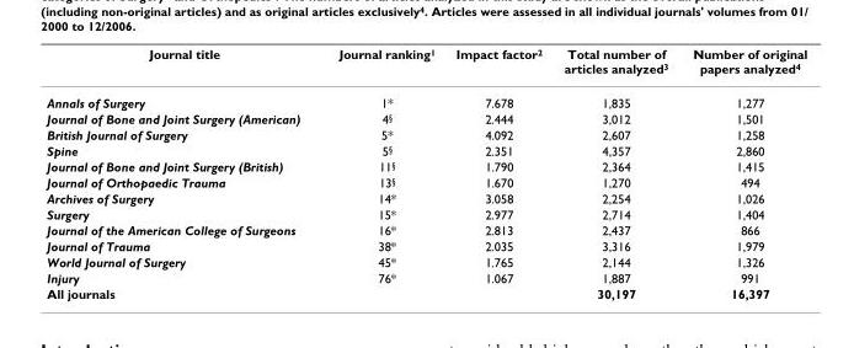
<table><thead><tr><td>Journal title</td><td>Journal ranking<sup>1</sup></td><td>Impact factor<sup>2</sup></td><td>Total number of articles analyzed<sup>3</sup></td><td>Number of original papers analyzed<sup>4</sup></td></tr></thead><tbody><tr><td>Annals of Surgery</td><td>1*</td><td>7.678</td><td>1,835</td><td>1,277</td></tr><tr><td>Journal of Bone and Joint Surgery (American)</td><td>4<sup>§</sup></td><td>2.444</td><td>3,012</td><td>1,501</td></tr><tr><td>British Journal of Surgery</td><td>5*</td><td>4.092</td><td>2,607</td><td>1,258</td></tr><tr><td>Spine</td><td>5<sup>§</sup></td><td>2.351</td><td>4,357</td><td>2,860</td></tr><tr><td>Journal of Bone and Joint Surgery (British)</td><td>11<sup>§</sup></td><td>1.790</td><td>2,364</td><td>1,415</td></tr><tr><td>Journal of Orthopaedic Trauma</td><td>13<sup>§</sup></td><td>1.670</td><td>1,270</td><td>494</td></tr><tr><td>Archives of Surgery</td><td>14*</td><td>3.058</td><td>2,254</td><td>1,026</td></tr><tr><td>Surgery</td><td>15*</td><td>2.977</td><td>2,714</td><td>1,404</td></tr><tr><td>Journal of the American College of Surgeons</td><td>16*</td><td>2.813</td><td>2,437</td><td>866</td></tr><tr><td>Journal of Trauma</td><td>38*</td><td>2.035</td><td>3,316</td><td>1,979</td></tr><tr><td>World Journal of Surgery</td><td>45*</td><td>1.765</td><td>2,144</td><td>1,326</td></tr><tr><td>Injury</td><td>76*</td><td>1.067</td><td>1,887</td><td>991</td></tr><tr><td>All journals</td><td></td><td></td><td>30,197</td><td>16,397</td></tr></tbody></table>